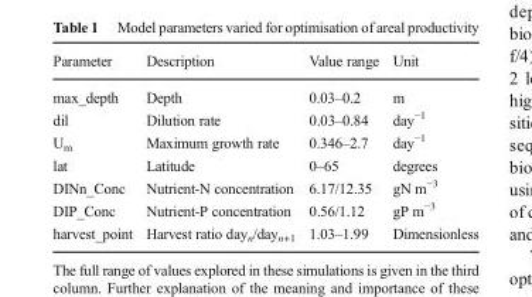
<table><thead><tr><td>Parameter</td><td>Description</td><td>Value range</td><td>Unit</td></tr></thead><tbody><tr><td>max_depth</td><td>Depth</td><td>0.03–0.2</td><td>m</td></tr><tr><td>dil</td><td>Dilution rate</td><td>0.03–0.84</td><td>day<sup>−1</sup></td></tr><tr><td>U<sub>m</sub></td><td>Maximum growth rate</td><td>0.346–2.7</td><td>day<sup>−1</sup></td></tr><tr><td>lat</td><td>Latitude</td><td>0–65</td><td>degrees</td></tr><tr><td>DINn_Conc</td><td>Nutrient-N concentration</td><td>6.17/12.35</td><td>gN m<sup>−3</sup></td></tr><tr><td>DIP_Conc</td><td>Nutrient-P concentration</td><td>0.56/1.12</td><td>gP m<sup>−3</sup></td></tr><tr><td>harvest_point</td><td>Harvest ratio day<sub>n</sub>/day<sub>n+1</sub></td><td>1.03–1.99</td><td>Dimensionless</td></tr></tbody></table>